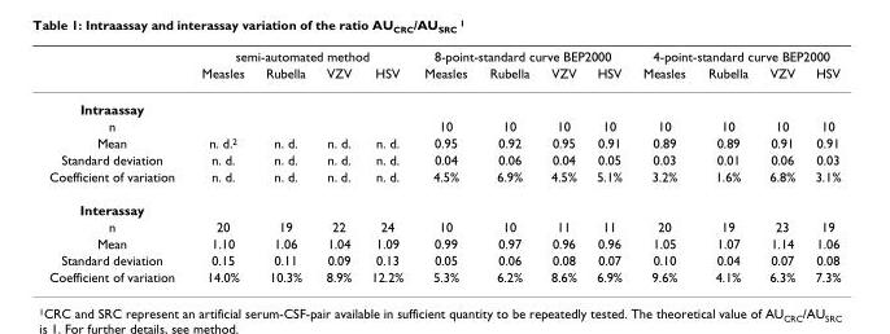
<table><thead><tr><td rowspan="2"></td><td colspan="4">semi-automated method</td><td colspan="4">8-point-standard curve BEP2000</td><td colspan="4">4-point-standard curve BEP2000</td></tr><tr><td>Measles</td><td>Rubella</td><td>VZV</td><td>HSV</td><td>Measles</td><td>Rubella</td><td>VZV</td><td>HSV</td><td>Measles</td><td>Rubella</td><td>VZV</td><td>HSV</td></tr></thead><tbody><tr><td colspan="13">Intraassay</td></tr><tr><td>n</td><td></td><td></td><td></td><td></td><td>10</td><td>10</td><td>10</td><td>10</td><td>10</td><td>10</td><td>10</td><td>10</td></tr><tr><td>Mean</td><td>n. d.<sup>2</sup></td><td>n. d.</td><td>n. d.</td><td>n. d.</td><td>0.95</td><td>0.92</td><td>0.95</td><td>0.91</td><td>0.89</td><td>0.89</td><td>0.91</td><td>0.91</td></tr><tr><td>Standard deviation</td><td>n. d.</td><td>n. d.</td><td>n. d.</td><td>n. d.</td><td>0.04</td><td>0.06</td><td>0.04</td><td>0.05</td><td>0.03</td><td>0.01</td><td>0.06</td><td>0.03</td></tr><tr><td>Coefficient of variation</td><td>n. d.</td><td>n. d.</td><td>n. d.</td><td>n. d.</td><td>4.5%</td><td>6.9%</td><td>4.5%</td><td>5.1%</td><td>3.2%</td><td>1.6%</td><td>6.8%</td><td>3.1%</td></tr><tr><td colspan="13">Interassay</td></tr><tr><td>n</td><td>20</td><td>19</td><td>22</td><td>24</td><td>10</td><td>10</td><td>11</td><td>11</td><td>20</td><td>19</td><td>23</td><td>19</td></tr><tr><td>Mean</td><td>1.10</td><td>1.06</td><td>1.04</td><td>1.09</td><td>0.99</td><td>0.97</td><td>0.96</td><td>0.96</td><td>1.05</td><td>1.07</td><td>1.14</td><td>1.06</td></tr><tr><td>Standard deviation</td><td>0.15</td><td>0.11</td><td>0.09</td><td>0.13</td><td>0.05</td><td>0.06</td><td>0.08</td><td>0.07</td><td>0.10</td><td>0.04</td><td>0.07</td><td>0.08</td></tr><tr><td>Coefficient of variation</td><td>14.0%</td><td>10.3%</td><td>8.9%</td><td>12.2%</td><td>5.3%</td><td>6.2%</td><td>8.6%</td><td>6.9%</td><td>9.6%</td><td>4.1%</td><td>6.3%</td><td>7.3%</td></tr></tbody></table>